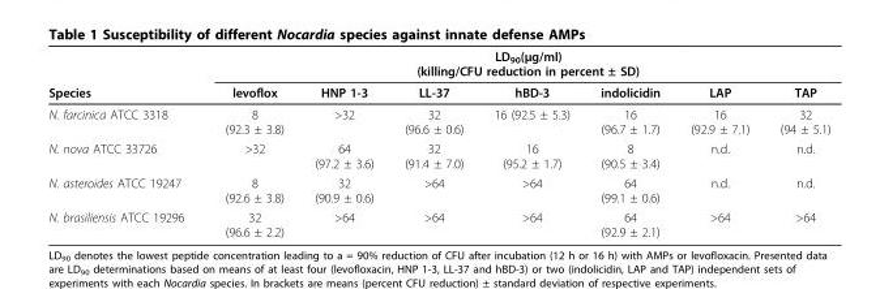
<table><thead><tr><td rowspan="2">Species</td><td colspan="7">LD<sub>90</sub>(μg/ml) (killing/CFU reduction in percent ± SD)</td></tr><tr><td>levoflox</td><td>HNP 1-3</td><td>LL-37</td><td>hBD-3</td><td>indolicidin</td><td>LAP</td><td>TAP</td></tr></thead><tbody><tr><td>N. farcinica ATCC 3318</td><td>8 (92.3 ± 3.8)</td><td>&gt;32</td><td>32 (96.6 ± 0.6)</td><td>16 (92.5 ± 5.3)</td><td>16 (96.7 ± 1.7)</td><td>16 (92.9 ± 7.1)</td><td>32 (94 ± 5.1)</td></tr><tr><td>N. nova ATCC 33726</td><td>&gt;32</td><td>64 (97.2 ± 3.6)</td><td>32 (91.4 ± 7.0)</td><td>16 (95.2 ± 1.7)</td><td>8 (90.5 ± 3.4)</td><td>n.d.</td><td>n.d.</td></tr><tr><td>N. asteroides ATCC 19247</td><td>8 (92.6 ± 3.8)</td><td>32 (90.9 ± 0.6)</td><td>&gt;64</td><td>&gt;64</td><td>64 (99.1 ± 0.6)</td><td>n.d.</td><td>n.d.</td></tr><tr><td>N. brasiliensis ATCC 19296</td><td>32 (96.6 ± 2.2)</td><td>&gt;64</td><td>&gt;64</td><td>&gt;64</td><td>64 (92.9 ± 2.1)</td><td>&gt;64</td><td>&gt;64</td></tr></tbody></table>